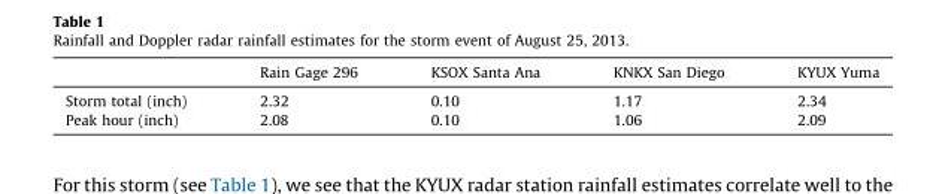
<table><thead><tr><td></td><td>Rain Gage 296</td><td>KSOX Santa Ana</td><td>KNKX San Diego</td><td>KYUX Yuma</td></tr></thead><tbody><tr><td>Storm total (inch)</td><td>2.32</td><td>0.10</td><td>1.17</td><td>2.34</td></tr><tr><td>Peak hour (inch)</td><td>2.08</td><td>0.10</td><td>1.06</td><td>2.09</td></tr></tbody></table>